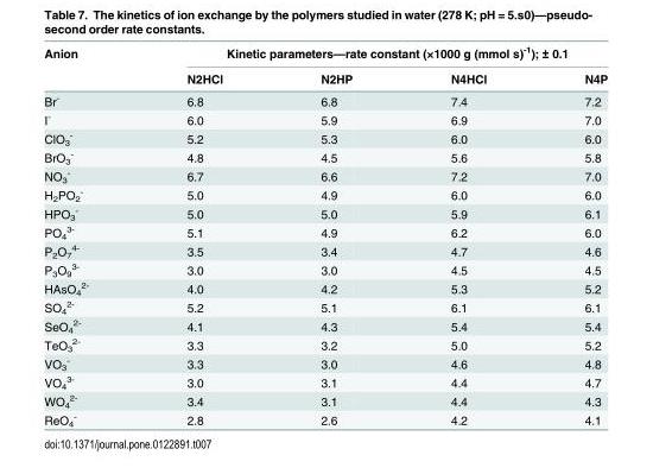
<table><thead><tr><td rowspan="2">Anion</td><td colspan="4">Kinetic parameters—rate constant (×1000 g (mmol s)<sup>-1</sup>); ± 0.1</td></tr><tr><td>N2HCl</td><td>N2HP</td><td>N4HCl</td><td>N4P</td></tr></thead><tbody><tr><td>Br<sup>-</sup></td><td>6.8</td><td>6.8</td><td>7.4</td><td>7.2</td></tr><tr><td>I<sup>-</sup></td><td>6.0</td><td>5.9</td><td>6.9</td><td>7.0</td></tr><tr><td>ClO<sub>3</sub> <sup>-</sup></td><td>5.2</td><td>5.3</td><td>6.0</td><td>6.0</td></tr><tr><td>BrO<sub>3</sub> <sup>-</sup></td><td>4.8</td><td>4.5</td><td>5.6</td><td>5.8</td></tr><tr><td>NO<sub>3</sub> <sup>-</sup></td><td>6.7</td><td>6.6</td><td>7.2</td><td>7.0</td></tr><tr><td>H<sub>2</sub>PO<sub>2</sub> <sup>-</sup></td><td>5.0</td><td>4.9</td><td>6.0</td><td>6.0</td></tr><tr><td>HPO<sub>3</sub> <sup>-</sup></td><td>5.0</td><td>5.0</td><td>5.9</td><td>6.1</td></tr><tr><td>PO<sub>4</sub> <sup>3-</sup></td><td>5.1</td><td>4.9</td><td>6.2</td><td>6.0</td></tr><tr><td>P<sub>2</sub>O<sub>7</sub> <sup>4-</sup></td><td>3.5</td><td>3.4</td><td>4.7</td><td>4.6</td></tr><tr><td>P<sub>3</sub>O<sub>9</sub> <sup>3-</sup></td><td>3.0</td><td>3.0</td><td>4.5</td><td>4.5</td></tr><tr><td>HAsO<sub>4</sub> <sup>2-</sup></td><td>4.0</td><td>4.2</td><td>5.3</td><td>5.2</td></tr><tr><td>SO<sub>4</sub> <sup>2-</sup></td><td>5.2</td><td>5.1</td><td>6.1</td><td>6.1</td></tr><tr><td>SeO<sub>4</sub> <sup>2-</sup></td><td>4.1</td><td>4.3</td><td>5.4</td><td>5.4</td></tr><tr><td>TeO<sub>3</sub> <sup>2-</sup></td><td>3.3</td><td>3.2</td><td>5.0</td><td>5.2</td></tr><tr><td>VO<sub>3</sub> <sup>-</sup></td><td>3.3</td><td>3.0</td><td>4.6</td><td>4.8</td></tr><tr><td>VO<sub>4</sub> <sup>3-</sup></td><td>3.0</td><td>3.1</td><td>4.4</td><td>4.7</td></tr><tr><td>WO<sub>4</sub> <sup>2-</sup></td><td>3.4</td><td>3.1</td><td>4.4</td><td>4.3</td></tr><tr><td>ReO<sub>4</sub> <sup>-</sup></td><td>2.8</td><td>2.6</td><td>4.2</td><td>4.1</td></tr></tbody></table>